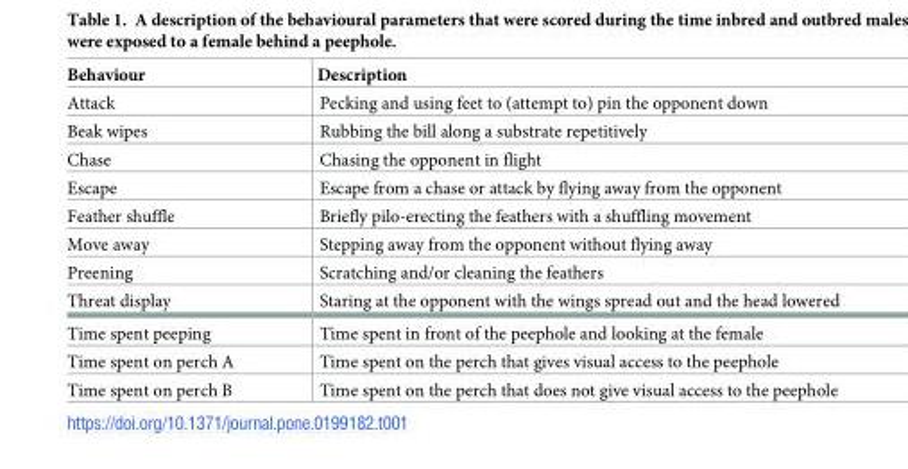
<table><thead><tr><td>Behaviour</td><td>Description</td></tr></thead><tbody><tr><td>Attack</td><td>Pecking and using feet to (attempt to) pin the opponent down</td></tr><tr><td>Beak wipes</td><td>Rubbing the bill along a substrate repetitively</td></tr><tr><td>Chase</td><td>Chasing the opponent in flight</td></tr><tr><td>Escape</td><td>Escape from a chase or attack by flying away from the opponent</td></tr><tr><td>Feather shuffle</td><td>Briefly pilo-erecting the feathers with a shuffling movement</td></tr><tr><td>Move away</td><td>Stepping away from the opponent without flying away</td></tr><tr><td>Preening</td><td>Scratching and/or cleaning the feathers</td></tr><tr><td>Threat display</td><td>Staring at the opponent with the wings spread out and the head lowered</td></tr><tr><td>Time spent peeping</td><td>Time spent in front of the peephole and looking at the female</td></tr><tr><td>Time spent on perch A</td><td>Time spent on the perch that gives visual access to the peephole</td></tr><tr><td>Time spent on perch B</td><td>Time spent on the perch that does not give visual access to the peephole</td></tr></tbody></table>